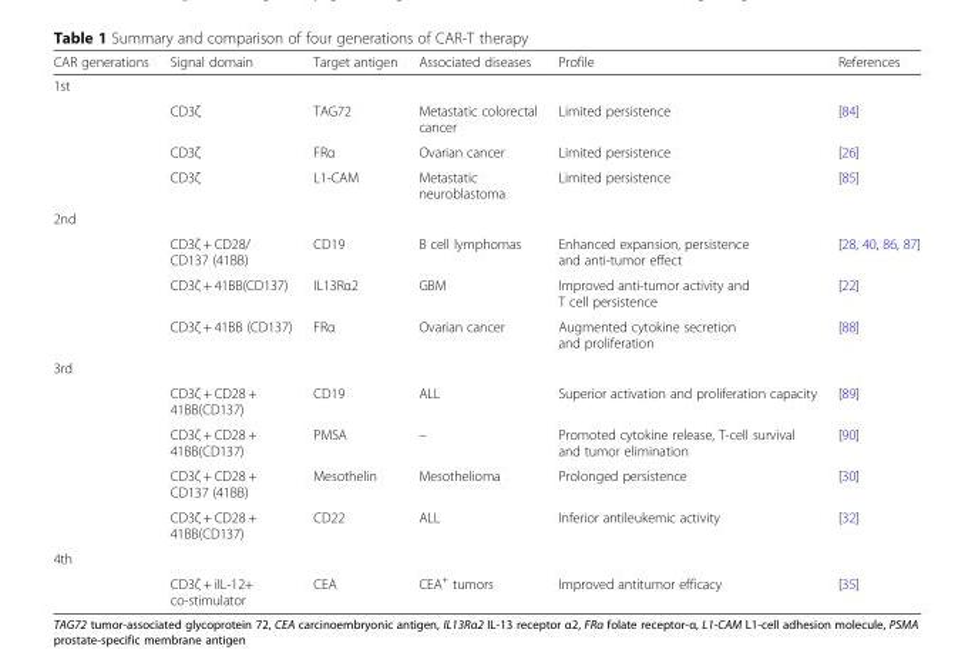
<table><thead><tr><td>CAR generations</td><td>Signal domain</td><td>Target antigen</td><td>Associated diseases</td><td>Profile</td><td>References</td></tr></thead><tbody><tr><td colspan="6">1st</td></tr><tr><td></td><td>CD3ζ</td><td>TAG72</td><td>Metastatic colorectal cancer</td><td>Limited persistence</td><td>[84]</td></tr><tr><td></td><td>CD3ζ</td><td>FRα</td><td>Ovarian cancer</td><td>Limited persistence</td><td>[26]</td></tr><tr><td></td><td>CD3ζ</td><td>L1-CAM</td><td>Metastatic neuroblastoma</td><td>Limited persistence</td><td>[85]</td></tr><tr><td colspan="6">2nd</td></tr><tr><td></td><td>CD3ζ + CD28/ CD137 (41BB)</td><td>CD19</td><td>B cell lymphomas</td><td>Enhanced expansion, persistence and anti-tumor effect</td><td>[28, 40, 86, 87]</td></tr><tr><td></td><td>CD3ζ + 41BB(CD137)</td><td>IL13Rα2</td><td>GBM</td><td>Improved anti-tumor activity and T cell persistence</td><td>[22]</td></tr><tr><td></td><td>CD3ζ + 41BB (CD137)</td><td>FRα</td><td>Ovarian cancer</td><td>Augmented cytokine secretion and proliferation</td><td>[88]</td></tr><tr><td colspan="6">3rd</td></tr><tr><td></td><td>CD3ζ + CD28 + 41BB(CD137)</td><td>CD19</td><td>ALL</td><td>Superior activation and proliferation capacity</td><td>[89]</td></tr><tr><td></td><td>CD3ζ + CD28 + 41BB(CD137)</td><td>PMSA</td><td>–</td><td>Promoted cytokine release, T-cell survival and tumor elimination</td><td>[90]</td></tr><tr><td></td><td>CD3ζ + CD28 + CD137 (41BB)</td><td>Mesothelin</td><td>Mesothelioma</td><td>Prolonged persistence</td><td>[30]</td></tr><tr><td></td><td>CD3ζ + CD28 + 41BB(CD137)</td><td>CD22</td><td>ALL</td><td>Inferior antileukemic activity</td><td>[32]</td></tr><tr><td colspan="6">4th</td></tr><tr><td></td><td>CD3ζ + iIL-12+ co-stimulator</td><td>CEA</td><td>CEA<sup>+</sup> tumors</td><td>Improved antitumor efficacy</td><td>[35]</td></tr></tbody></table>